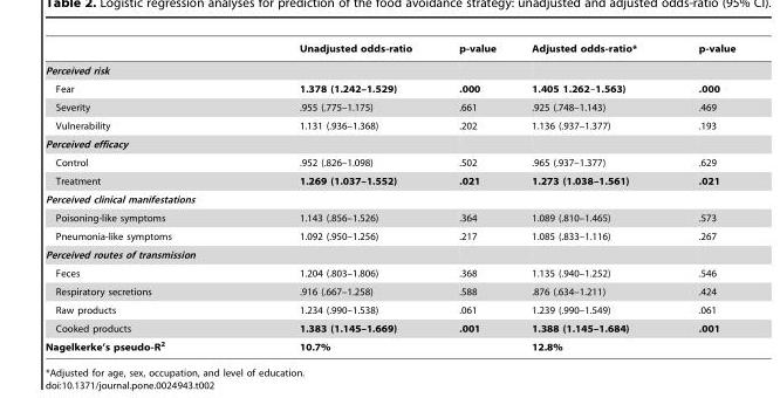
<table><thead><tr><td></td><td>Unadjusted odds-ratio</td><td>p-value</td><td>Adjusted odds-ratio*</td><td>p-value</td></tr></thead><tbody><tr><td colspan="5">Perceived risk</td></tr><tr><td>Fear</td><td>1.378 (1.242–1.529)</td><td>.000</td><td>1.405 1.262–1.563)</td><td>.000</td></tr><tr><td>Severity</td><td>.955 (.775–1.175)</td><td>.661</td><td>.925 (.748–1.143)</td><td>.469</td></tr><tr><td>Vulnerability</td><td>1.131 (.936–1.368)</td><td>.202</td><td>1.136 (.937–1.377)</td><td>.193</td></tr><tr><td colspan="5">Perceived efficacy</td></tr><tr><td>Control</td><td>.952 (.826–1.098)</td><td>.502</td><td>.965 (.937–1.377)</td><td>.629</td></tr><tr><td>Treatment</td><td>1.269 (1.037–1.552)</td><td>.021</td><td>1.273 (1.038–1.561)</td><td>.021</td></tr><tr><td colspan="5">Perceived clinical manifestations</td></tr><tr><td>Poisoning-like symptoms</td><td>1.143 (.856–1.526)</td><td>.364</td><td>1.089 (.810–1.465)</td><td>.573</td></tr><tr><td>Pneumonia-like symptoms</td><td>1.092 (.950–1.256)</td><td>.217</td><td>1.085 (.833–1.116)</td><td>.267</td></tr><tr><td colspan="5">Perceived routes of transmission</td></tr><tr><td>Feces</td><td>1.204 (.803–1.806)</td><td>.368</td><td>1.135 (.940–1.252)</td><td>.546</td></tr><tr><td>Respiratory secretions</td><td>.916 (.667–1.258)</td><td>.588</td><td>.876 (.634–1.211)</td><td>.424</td></tr><tr><td>Raw products</td><td>1.234 (.990–1.538)</td><td>.061</td><td>1.239 (.990–1.549)</td><td>.061</td></tr><tr><td>Cooked products</td><td>1.383 (1.145–1.669)</td><td>.001</td><td>1.388 (1.145–1.684)</td><td>.001</td></tr><tr><td>Nagelkerke’s pseudo-R<sup>2</sup></td><td>10.7%</td><td></td><td>12.8%</td><td></td></tr></tbody></table>